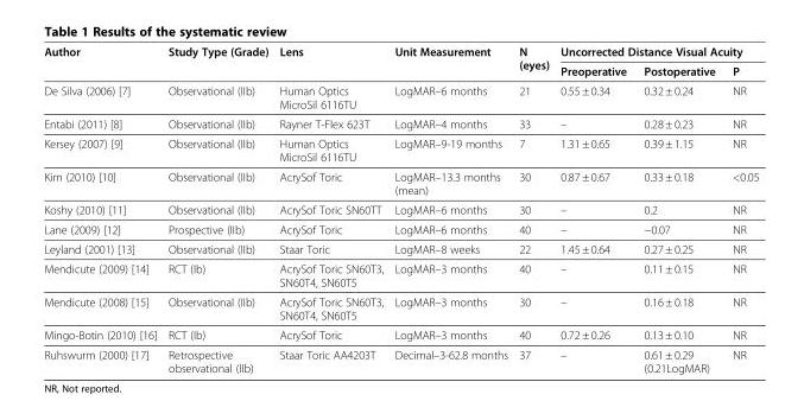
<table><thead><tr><td rowspan="2">Author</td><td rowspan="2">Study Type (Grade)</td><td rowspan="2">Lens</td><td rowspan="2">Unit Measurement</td><td rowspan="2">N (eyes)</td><td colspan="3">Uncorrected Distance Visual Acuity</td></tr><tr><td>Preoperative</td><td>Postoperative</td><td>P</td></tr></thead><tbody><tr><td>De Silva (2006) [7]</td><td>Observational (IIb)</td><td>Human Optics MicroSil 6116TU</td><td>LogMAR–6 months</td><td>21</td><td>0.55 ± 0.34</td><td>0.32 ± 0.24</td><td>NR</td></tr><tr><td>Entabi (2011) [8]</td><td>Observational (IIb)</td><td>Rayner T-Flex 623T</td><td>LogMAR–4 months</td><td>33</td><td>–</td><td>0.28 ± 0.23</td><td>NR</td></tr><tr><td>Kersey (2007) [9]</td><td>Observational (IIb)</td><td>Human Optics MicroSil 6116TU</td><td>LogMAR–9-19 months</td><td>7</td><td>1.31 ± 0.65</td><td>0.39 ± 1.15</td><td>NR</td></tr><tr><td>Kim (2010) [10]</td><td>Observational (IIb)</td><td>AcrySof Toric</td><td>LogMAR–13.3 months (mean)</td><td>30</td><td>0.87 ± 0.67</td><td>0.33 ± 0.18</td><td>&lt;0.05</td></tr><tr><td>Koshy (2010) [11]</td><td>Observational (IIb)</td><td>AcrySof Toric SN60TT</td><td>LogMAR–6 months</td><td>30</td><td>–</td><td>0.2</td><td>NR</td></tr><tr><td>Lane (2009) [12]</td><td>Prospective (IIb)</td><td>AcrySof Toric</td><td>LogMAR–6 months</td><td>40</td><td>–</td><td>−0.07</td><td>NR</td></tr><tr><td>Leyland (2001) [13]</td><td>Observational (IIb)</td><td>Staar Toric</td><td>LogMAR–8 weeks</td><td>22</td><td>1.45 ± 0.64</td><td>0.27 ± 0.25</td><td>NR</td></tr><tr><td>Mendicute (2009) [14]</td><td>RCT (Ib)</td><td>AcrySof Toric SN60T3, SN60T4, SN60T5</td><td>LogMAR–3 months</td><td>40</td><td>–</td><td>0.11 ± 0.15</td><td>NR</td></tr><tr><td>Mendicute (2008) [15]</td><td>Observational (IIb)</td><td>AcrySof Toric SN60T3, SN60T4, SN60T5</td><td>LogMAR–3 months</td><td>30</td><td>–</td><td>0.16 ± 0.18</td><td>NR</td></tr><tr><td>Mingo-Botin (2010) [16]</td><td>RCT (Ib)</td><td>AcrySof Toric</td><td>LogMAR–3 months</td><td>40</td><td>0.72 ± 0.26</td><td>0.13 ± 0.10</td><td>NR</td></tr><tr><td>Ruhswurm (2000) [17]</td><td>Retrospective observational (IIb)</td><td>Staar Toric AA4203T</td><td>Decimal–3-62.8 months</td><td>37</td><td>–</td><td>0.61 ± 0.29 (0.21LogMAR)</td><td>NR</td></tr></tbody></table>